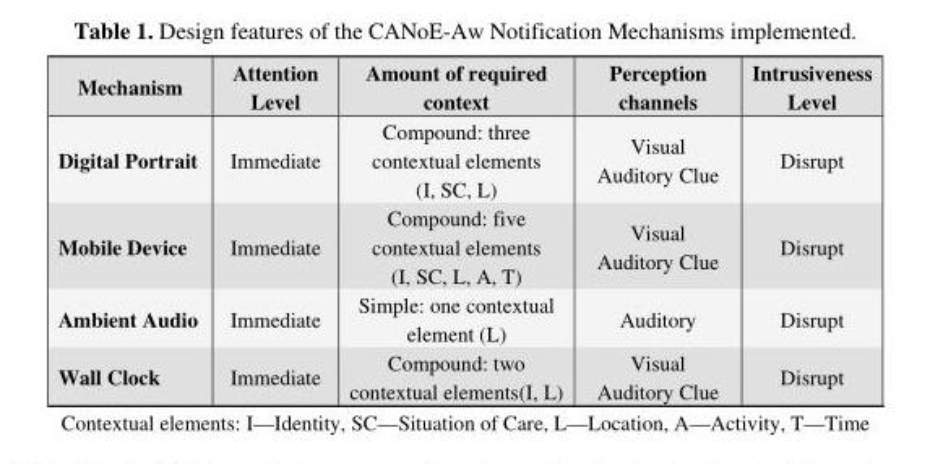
<table><thead><tr><td>Mechanism</td><td>Attention Level</td><td>Amount of required context</td><td>Perception channels</td><td>Intrusiveness Level</td></tr></thead><tbody><tr><td>Digital Portrait</td><td>Immediate</td><td>Compound: three contextual elements (I, SC, L)</td><td>Visual Auditory Clue</td><td>Disrupt</td></tr><tr><td>Mobile Device</td><td>Immediate</td><td>Compound: five contextual elements (I, SC, L, A, T)</td><td>Visual Auditory Clue</td><td>Disrupt</td></tr><tr><td>Ambient Audio</td><td>Immediate</td><td>Simple: one contextual element (L)</td><td>Auditory</td><td>Disrupt</td></tr><tr><td>Wall Clock</td><td>Immediate</td><td>Compound: two contextual elements(I, L)</td><td>Visual Auditory Clue</td><td>Disrupt</td></tr></tbody></table>